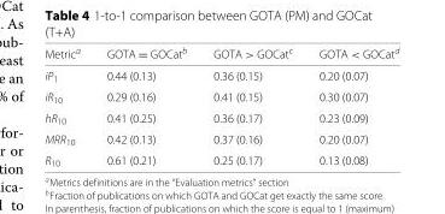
<table><thead><tr><td>Metric<sup>a</sup></td><td>GOTA = GOCat<sup>b</sup></td><td>GOTA &gt; GOCat<sup>c</sup></td><td>GOTA &lt; GOCat<sup>d</sup></td></tr></thead><tbody><tr><td>iP<sub>1</sub></td><td>0.44 (0.13)</td><td>0.36 (0.15)</td><td>0.20 (0.07)</td></tr><tr><td>iR<sub>10</sub></td><td>0.29 (0.16)</td><td>0.41 (0.15)</td><td>0.30 (0.07)</td></tr><tr><td>hR<sub>10</sub></td><td>0.41 (0.25)</td><td>0.36 (0.17)</td><td>0.23 (0.09)</td></tr><tr><td>MRR<sub>10</sub></td><td>0.42 (0.13)</td><td>0.37 (0.16)</td><td>0.20 (0.07)</td></tr><tr><td>R<sub>10</sub></td><td>0.61 (0.21)</td><td>0.25 (0.17)</td><td>0.13 (0.08)</td></tr></tbody></table>